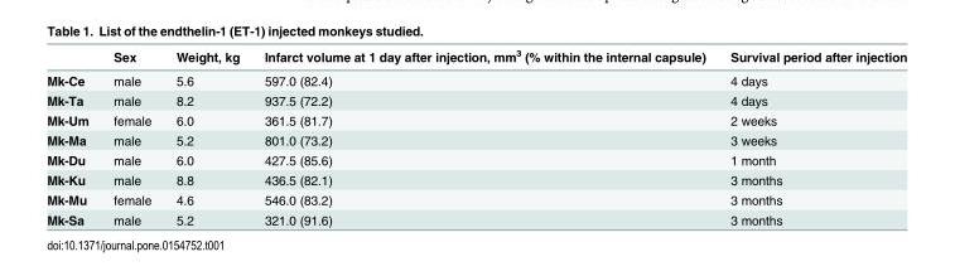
<table><thead><tr><td></td><td>Sex</td><td>Weight, kg</td><td>Infarct volume at 1 day after injection, mm<sup>3</sup> (% within the internal capsule)</td><td>Survival period after injection</td></tr></thead><tbody><tr><td>Mk-Ce</td><td>male</td><td>5.6</td><td>597.0 (82.4)</td><td>4 days</td></tr><tr><td>Mk-Ta</td><td>male</td><td>8.2</td><td>937.5 (72.2)</td><td>4 days</td></tr><tr><td>Mk-Um</td><td>female</td><td>6.0</td><td>361.5 (81.7)</td><td>2 weeks</td></tr><tr><td>Mk-Ma</td><td>male</td><td>5.2</td><td>801.0 (73.2)</td><td>3 weeks</td></tr><tr><td>Mk-Du</td><td>male</td><td>6.0</td><td>427.5 (85.6)</td><td>1 month</td></tr><tr><td>Mk-Ku</td><td>male</td><td>8.8</td><td>436.5 (82.1)</td><td>3 months</td></tr><tr><td>Mk-Mu</td><td>female</td><td>4.6</td><td>546.0 (83.2)</td><td>3 months</td></tr><tr><td>Mk-Sa</td><td>male</td><td>5.2</td><td>321.0 (91.6)</td><td>3 months</td></tr></tbody></table>